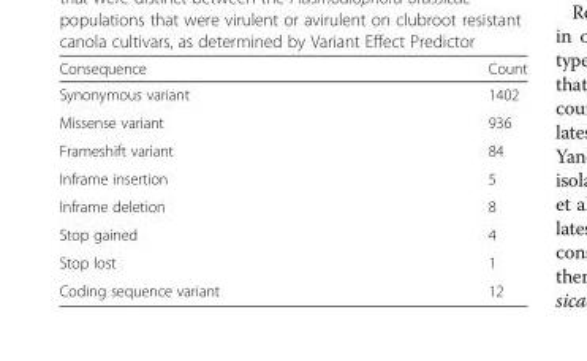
<table><thead><tr><td>Consequence</td><td>Count</td></tr></thead><tbody><tr><td>Synonymous variant</td><td>1402</td></tr><tr><td>Missense variant</td><td>936</td></tr><tr><td>Frameshift variant</td><td>84</td></tr><tr><td>Inframe insertion</td><td>5</td></tr><tr><td>Inframe deletion</td><td>8</td></tr><tr><td>Stop gained</td><td>4</td></tr><tr><td>Stop lost</td><td>1</td></tr><tr><td>Coding sequence variant</td><td>12</td></tr></tbody></table>